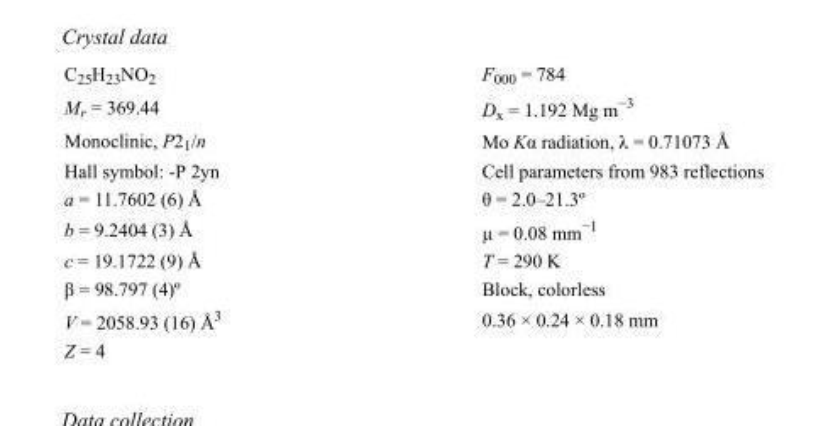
<table><tbody><tr><td>C<sub>25</sub>H<sub>23</sub>NO<sub>2</sub></td><td>F000 = 784</td></tr><tr><td>M<sub>r</sub> = 369.44</td><td>D<sub>x</sub> = 1.192 Mg m<sup>−3</sup></td></tr><tr><td>Monoclinic, P2<sub>1</sub>/n</td><td>Mo Kα radiation, λ = 0.71073 Å</td></tr><tr><td>Hall symbol: -P 2yn</td><td>Cell parameters from 983 reflections</td></tr><tr><td>a = 11.7602 (6) Å</td><td>θ = 2.0–21.3º</td></tr><tr><td>b = 9.2404 (3) Å</td><td>µ = 0.08 mm<sup>−1</sup></td></tr><tr><td>c = 19.1722 (9) Å</td><td>T = 290 K</td></tr><tr><td>β = 98.797 (4)º</td><td>Block, colorless</td></tr><tr><td>V = 2058.93 (16) Å<sup>3</sup></td><td>0.36 × 0.24 × 0.18 mm</td></tr><tr><td>Z = 4</td><td></td></tr></tbody></table>